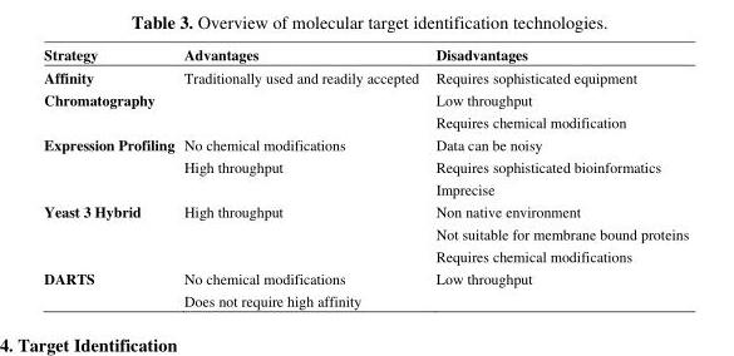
<table><thead><tr><td>Strategy</td><td>Advantages</td><td>Disadvantages</td></tr></thead><tbody><tr><td>Affinity</td><td>Traditionally used and readily accepted</td><td>Requires sophisticated equipment</td></tr><tr><td rowspan="2">Chromatography</td><td></td><td>Low throughput</td></tr><tr><td></td><td>Requires chemical modification</td></tr><tr><td rowspan="3">Expression Profiling</td><td>No chemical modifications</td><td>Data can be noisy</td></tr><tr><td>High throughput</td><td>Requires sophisticated bioinformatics</td></tr><tr><td></td><td>Imprecise</td></tr><tr><td rowspan="3">Yeast 3 Hybrid</td><td>High throughput</td><td>Non native environment</td></tr><tr><td></td><td>Not suitable for membrane bound proteins</td></tr><tr><td></td><td>Requires chemical modifications</td></tr><tr><td rowspan="2">DARTS</td><td>No chemical modifications</td><td>Low throughput</td></tr><tr><td>Does not require high affinity</td><td></td></tr></tbody></table>